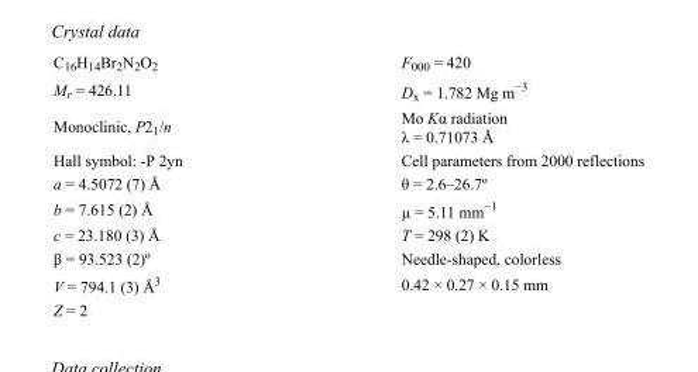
<table><tbody><tr><td>C<sub>16</sub>H<sub>14</sub>Br<sub>2</sub>N<sub>2</sub>O<sub>2</sub></td><td>F<sub>000</sub> = 420</td></tr><tr><td>M<sub>r</sub> = 426.11</td><td>D<sub>x</sub> = 1.782 Mg m<sup>−3</sup></td></tr><tr><td>Monoclinic, P2<sub>1</sub>/n</td><td>Mo Kα radiation λ = 0.71073 Å</td></tr><tr><td>Hall symbol: -P 2yn</td><td>Cell parameters from 2000 reflections</td></tr><tr><td>a = 4.5072 (7) Å</td><td>θ = 2.6–26.7º</td></tr><tr><td>b = 7.615 (2) Å</td><td>µ = 5.11 mm<sup>−1</sup></td></tr><tr><td>c = 23.180 (3) Å</td><td>T = 298 (2) K</td></tr><tr><td>β = 93.523 (2)º</td><td>Needle-shaped, colorless</td></tr><tr><td>V = 794.1 (3) Å<sup>3</sup></td><td>0.42 × 0.27 × 0.15 mm</td></tr><tr><td>Z = 2</td><td></td></tr></tbody></table>